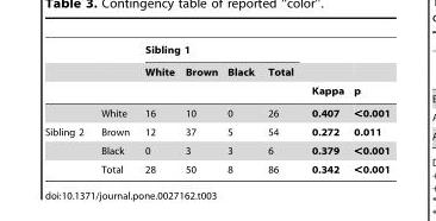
<table><thead><tr><td rowspan="3"></td><td rowspan="3"></td><td colspan="4">Sibling 1</td><td rowspan="3">Kappa</td><td rowspan="3">p</td></tr><tr><td rowspan="2">White</td><td rowspan="2">Brown</td><td rowspan="2">Black</td><td rowspan="2">Total</td></tr><tr></tr></thead><tbody><tr><td></td><td>White</td><td>16</td><td>10</td><td>0</td><td>26</td><td>0.407</td><td>&lt;0.001</td></tr><tr><td rowspan="3">Sibling 2</td><td>Brown</td><td>12</td><td>37</td><td>5</td><td>54</td><td>0.272</td><td>0.011</td></tr><tr><td>Black</td><td>0</td><td>3</td><td>3</td><td>6</td><td>0.379</td><td>&lt;0.001</td></tr><tr><td>Total</td><td>28</td><td>50</td><td>8</td><td>86</td><td>0.342</td><td>&lt;0.001</td></tr></tbody></table>